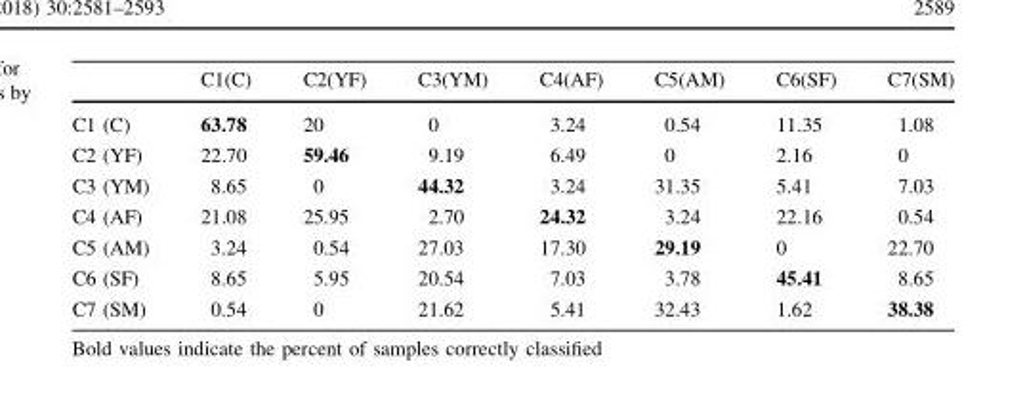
<table><thead><tr><td></td><td>C1(C)</td><td>C2(YF)</td><td>C3(YM)</td><td>C4(AF)</td><td>C5(AM)</td><td>C6(SF)</td><td>C7(SM)</td></tr></thead><tbody><tr><td>C1 (C)</td><td>63.78</td><td>20</td><td>0</td><td>3.24</td><td>0.54</td><td>11.35</td><td>1.08</td></tr><tr><td>C2 (YF)</td><td>22.70</td><td>59.46</td><td>9.19</td><td>6.49</td><td>0</td><td>2.16</td><td>0</td></tr><tr><td>C3 (YM)</td><td>8.65</td><td>0</td><td>44.32</td><td>3.24</td><td>31.35</td><td>5.41</td><td>7.03</td></tr><tr><td>C4 (AF)</td><td>21.08</td><td>25.95</td><td>2.70</td><td>24.32</td><td>3.24</td><td>22.16</td><td>0.54</td></tr><tr><td>C5 (AM)</td><td>3.24</td><td>0.54</td><td>27.03</td><td>17.30</td><td>29.19</td><td>0</td><td>22.70</td></tr><tr><td>C6 (SF)</td><td>8.65</td><td>5.95</td><td>20.54</td><td>7.03</td><td>3.78</td><td>45.41</td><td>8.65</td></tr><tr><td>C7 (SM)</td><td>0.54</td><td>0</td><td>21.62</td><td>5.41</td><td>32.43</td><td>1.62</td><td>38.38</td></tr></tbody></table>